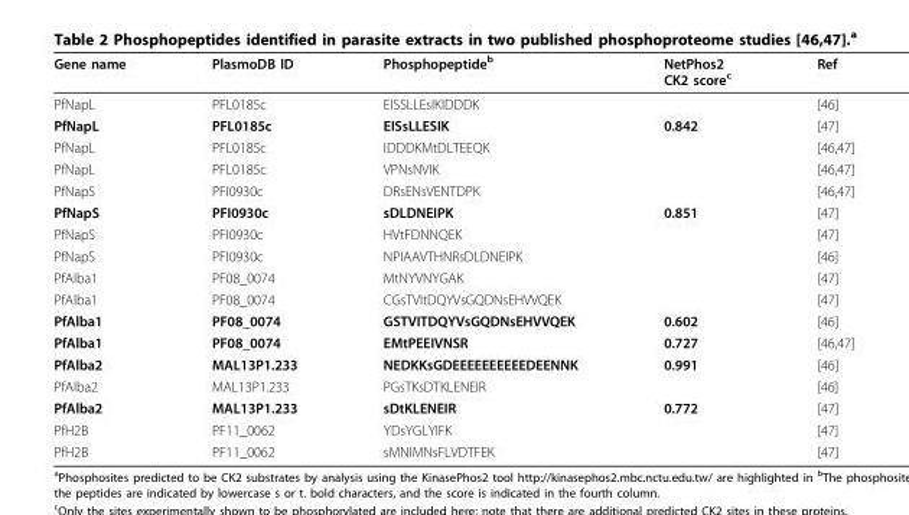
<table><thead><tr><td>Gene name</td><td>PlasmoDB ID</td><td>Phosphopeptide<sup>b</sup></td><td>NetPhos2 CK2 score<sup>c</sup></td><td>Ref</td></tr></thead><tbody><tr><td>PfNapL</td><td>PFL0185c</td><td>EISSLLEsIKIDDDK</td><td></td><td>[46]</td></tr><tr><td>PfNapL</td><td>PFL0185c</td><td>EISsLLESIK</td><td>0.842</td><td>[47]</td></tr><tr><td>PfNapL</td><td>PFL0185c</td><td>IDDDKMtDLTEEQK</td><td></td><td>[46,47]</td></tr><tr><td>PfNapL</td><td>PFL0185c</td><td>VPNsNVIK</td><td></td><td>[46,47]</td></tr><tr><td>PfNapS</td><td>PFI0930c</td><td>DRsENsVENTDPK</td><td></td><td>[46,47]</td></tr><tr><td>PfNapS</td><td>PFI0930c</td><td>sDLDNEIPK</td><td>0.851</td><td>[47]</td></tr><tr><td>PfNapS</td><td>PFI0930c</td><td>HVtFDNNQEK</td><td></td><td>[47]</td></tr><tr><td>PfNapS</td><td>PFI0930c</td><td>NPIAAVTHNRsDLDNEIPK</td><td></td><td>[46]</td></tr><tr><td>PfAlba1</td><td>PF08_0074</td><td>MtNYVNYGAK</td><td></td><td>[47]</td></tr><tr><td>PfAlba1</td><td>PF08_0074</td><td>CGsTVItDQYVsGQDNsEHVVQEK</td><td></td><td>[47]</td></tr><tr><td>PfAlba1</td><td>PF08_0074</td><td>GSTVITDQYVsGQDNsEHVVQEK</td><td>0.602</td><td>[46]</td></tr><tr><td>PfAlba1</td><td>PF08_0074</td><td>EMtPEEIVNSR</td><td>0.727</td><td>[46,47]</td></tr><tr><td>PfAlba2</td><td>MAL13P1.233</td><td>NEDKKsGDEEEEEEEEEEDEENNK</td><td>0.991</td><td>[46]</td></tr><tr><td>PfAlba2</td><td>MAL13P1.233</td><td>PGsTKsDTKLENEIR</td><td></td><td>[46]</td></tr><tr><td>PfAlba2</td><td>MAL13P1.233</td><td>sDtKLENEIR</td><td>0.772</td><td>[47]</td></tr><tr><td>PfH2B</td><td>PF11_0062</td><td>YDsYGLYIFK</td><td></td><td>[47]</td></tr><tr><td>PfH2B</td><td>PF11_0062</td><td>sMNIMNsFLVDTFEK</td><td></td><td>[47]</td></tr></tbody></table>